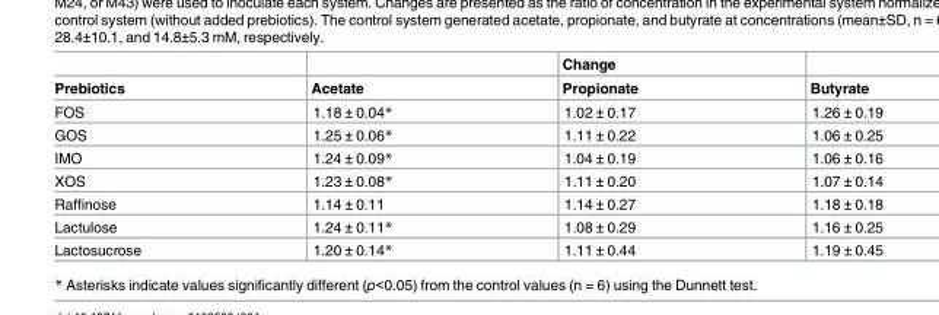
<table><thead><tr><td rowspan="2">Prebiotics</td><td rowspan="2">Acetate</td><td rowspan="2">Change Propionate</td><td rowspan="2">Butyrate</td></tr><tr></tr></thead><tbody><tr><td>FOS</td><td>1.18 ± 0.04*</td><td>1.02 ± 0.17</td><td>1.26 ± 0.19</td></tr><tr><td>GOS</td><td>1.25 ± 0.06*</td><td>1.11 ± 0.22</td><td>1.06 ± 0.25</td></tr><tr><td>IMO</td><td>1.24 ± 0.09*</td><td>1.04 ± 0.19</td><td>1.06 ± 0.16</td></tr><tr><td>XOS</td><td>1.23 ± 0.08*</td><td>1.11 ± 0.20</td><td>1.07 ± 0.14</td></tr><tr><td>Raffinose</td><td>1.14 ± 0.11</td><td>1.14 ± 0.27</td><td>1.18 ± 0.18</td></tr><tr><td>Lactulose</td><td>1.24 ± 0.11*</td><td>1.08 ± 0.29</td><td>1.16 ± 0.25</td></tr><tr><td>Lactosucrose</td><td>1.20 ± 0.14*</td><td>1.11 ± 0.44</td><td>1.19 ± 0.45</td></tr></tbody></table>